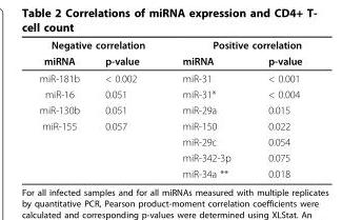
<table><thead><tr><td colspan="2">Negative correlation</td><td colspan="2">Positive correlation</td></tr><tr><td>miRNA</td><td>p-value</td><td>miRNA</td><td>p-value</td></tr></thead><tbody><tr><td>miR-181b</td><td>&lt; 0.002</td><td>miR-31</td><td>&lt; 0.001</td></tr><tr><td>miR-16</td><td>0.051</td><td>miR-31*</td><td>&lt; 0.004</td></tr><tr><td>miR-130b</td><td>0.051</td><td>miR-29a</td><td>0.015</td></tr><tr><td rowspan="4">miR-155</td><td>0.057</td><td>miR-150</td><td>0.022</td></tr><tr><td></td><td>miR-29c</td><td>0.054</td></tr><tr><td></td><td>miR-342-3p</td><td>0.075</td></tr><tr><td></td><td>miR-34a **</td><td>0.018</td></tr></tbody></table>